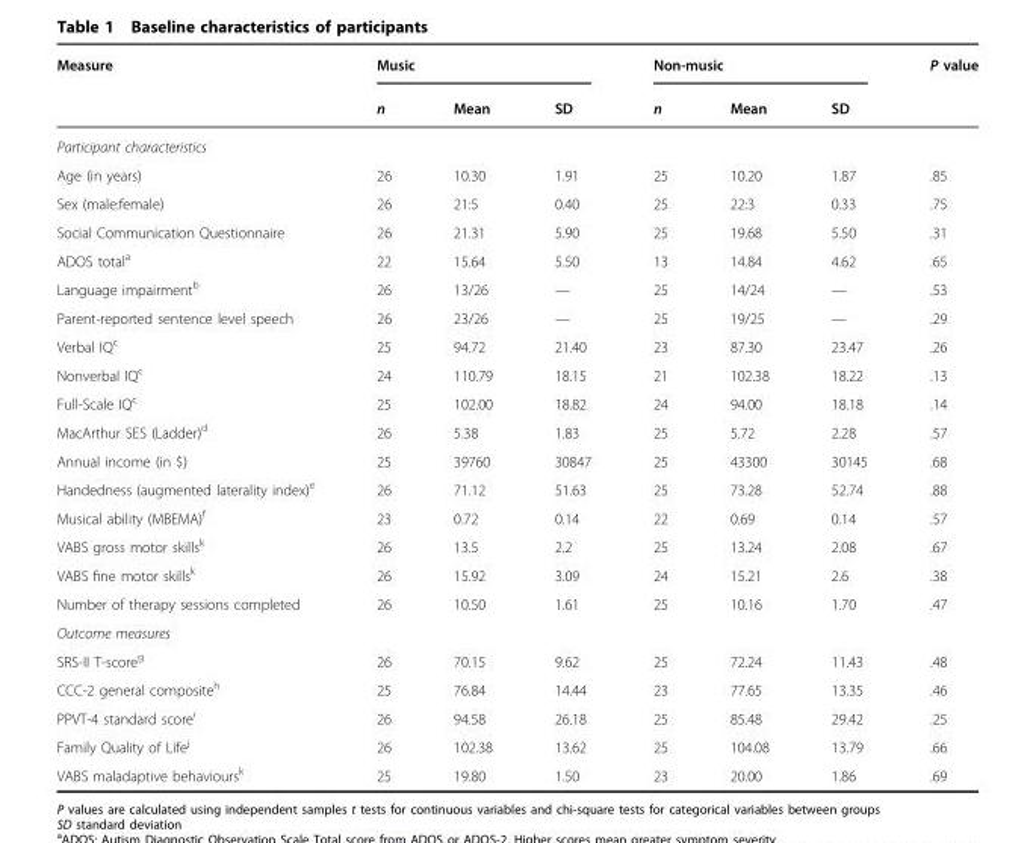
<table><thead><tr><td rowspan="2">Measure</td><td colspan="3">Music</td><td colspan="3">Non-music</td><td rowspan="2">P value</td></tr><tr><td>n</td><td>Mean</td><td>SD</td><td>n</td><td>Mean</td><td>SD</td></tr></thead><tbody><tr><td colspan="8">Participant characteristics</td></tr><tr><td>Age (in years)</td><td>26</td><td>10.30</td><td>1.91</td><td>25</td><td>10.20</td><td>1.87</td><td>.85</td></tr><tr><td>Sex (male:female)</td><td>26</td><td>21:5</td><td>0.40</td><td>25</td><td>22:3</td><td>0.33</td><td>.75</td></tr><tr><td>Social Communication Questionnaire</td><td>26</td><td>21.31</td><td>5.90</td><td>25</td><td>19.68</td><td>5.50</td><td>.31</td></tr><tr><td>ADOS total<sup>a</sup></td><td>22</td><td>15.64</td><td>5.50</td><td>13</td><td>14.84</td><td>4.62</td><td>.65</td></tr><tr><td>Language impairment<sup>b</sup></td><td>26</td><td>13/26</td><td>—</td><td>25</td><td>14/24</td><td>—</td><td>.53</td></tr><tr><td>Parent-reported sentence level speech</td><td>26</td><td>23/26</td><td>—</td><td>25</td><td>19/25</td><td>—</td><td>.29</td></tr><tr><td>Verbal IQ<sup>c</sup></td><td>25</td><td>94.72</td><td>21.40</td><td>23</td><td>87.30</td><td>23.47</td><td>.26</td></tr><tr><td>Nonverbal IQ<sup>c</sup></td><td>24</td><td>110.79</td><td>18.15</td><td>21</td><td>102.38</td><td>18.22</td><td>.13</td></tr><tr><td>Full-Scale IQ<sup>c</sup></td><td>25</td><td>102.00</td><td>18.82</td><td>24</td><td>94.00</td><td>18.18</td><td>.14</td></tr><tr><td>MacArthur SES (Ladder)<sup>d</sup></td><td>26</td><td>5.38</td><td>1.83</td><td>25</td><td>5.72</td><td>2.28</td><td>.57</td></tr><tr><td>Annual income (in $)</td><td>25</td><td>39760</td><td>30847</td><td>25</td><td>43300</td><td>30145</td><td>.68</td></tr><tr><td>Handedness (augmented laterality index)<sup>e</sup></td><td>26</td><td>71.12</td><td>51.63</td><td>25</td><td>73.28</td><td>52.74</td><td>.88</td></tr><tr><td>Musical ability (MBEMA)<sup>f</sup></td><td>23</td><td>0.72</td><td>0.14</td><td>22</td><td>0.69</td><td>0.14</td><td>.57</td></tr><tr><td>VABS gross motor skills<sup>k</sup></td><td>26</td><td>13.5</td><td>2.2</td><td>25</td><td>13.24</td><td>2.08</td><td>.67</td></tr><tr><td>VABS fine motor skills<sup>k</sup></td><td>26</td><td>15.92</td><td>3.09</td><td>24</td><td>15.21</td><td>2.6</td><td>.38</td></tr><tr><td>Number of therapy sessions completed</td><td>26</td><td>10.50</td><td>1.61</td><td>25</td><td>10.16</td><td>1.70</td><td>.47</td></tr><tr><td colspan="8">Outcome measures</td></tr><tr><td>SRS-II T-score<sup>g</sup></td><td>26</td><td>70.15</td><td>9.62</td><td>25</td><td>72.24</td><td>11.43</td><td>.48</td></tr><tr><td>CCC-2 general composite<sup>h</sup></td><td>25</td><td>76.84</td><td>14.44</td><td>23</td><td>77.65</td><td>13.35</td><td>.46</td></tr><tr><td>PPVT-4 standard score<sup>i</sup></td><td>26</td><td>94.58</td><td>26.18</td><td>25</td><td>85.48</td><td>29.42</td><td>.25</td></tr><tr><td>Family Quality of Life<sup>j</sup></td><td>26</td><td>102.38</td><td>13.62</td><td>25</td><td>104.08</td><td>13.79</td><td>.66</td></tr><tr><td>VABS maladaptive behaviours<sup>k</sup></td><td>25</td><td>19.80</td><td>1.50</td><td>23</td><td>20.00</td><td>1.86</td><td>.69</td></tr></tbody></table>